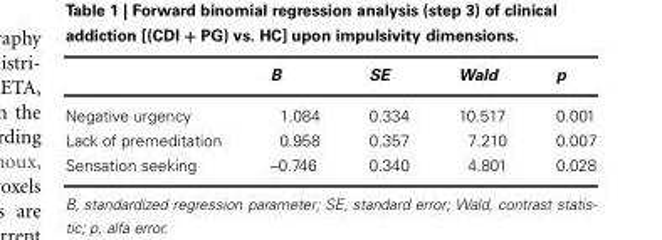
<table><thead><tr><td></td><td>B</td><td>SE</td><td>Wald</td><td>p</td></tr></thead><tbody><tr><td>Negative urgency</td><td>1.084</td><td>0.334</td><td>10.517</td><td>0.001</td></tr><tr><td>Lack of premeditation</td><td>0.958</td><td>0.357</td><td>7.210</td><td>0.007</td></tr><tr><td>Sensation seeking</td><td>–0.746</td><td>0.340</td><td>4.801</td><td>0.028</td></tr></tbody></table>